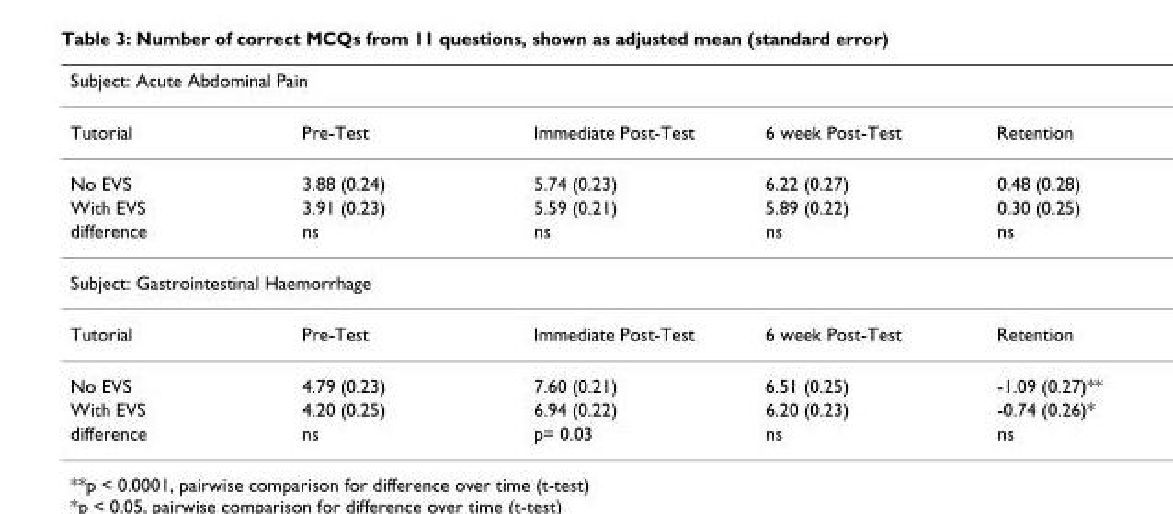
<table><thead><tr><td colspan="5">Subject: Acute Abdominal Pain</td></tr><tr><td>Tutorial</td><td>Pre-Test</td><td>Immediate Post-Test</td><td>6 week Post-Test</td><td>Retention</td></tr></thead><tbody><tr><td>No EVS</td><td>3.88 (0.24)</td><td>5.74 (0.23)</td><td>6.22 (0.27)</td><td>0.48 (0.28)</td></tr><tr><td>With EVS</td><td>3.91 (0.23)</td><td>5.59 (0.21)</td><td>5.89 (0.22)</td><td>0.30 (0.25)</td></tr><tr><td>difference</td><td>ns</td><td>ns</td><td>ns</td><td>ns</td></tr><tr><td colspan="5">Subject: Gastrointestinal Haemorrhage</td></tr><tr><td>Tutorial</td><td>Pre-Test</td><td>Immediate Post-Test</td><td>6 week Post-Test</td><td>Retention</td></tr><tr><td>No EVS</td><td>4.79 (0.23)</td><td>7.60 (0.21)</td><td>6.51 (0.25)</td><td>-1.09 (0.27)**</td></tr><tr><td>With EVS</td><td>4.20 (0.25)</td><td>6.94 (0.22)</td><td>6.20 (0.23)</td><td>-0.74 (0.26)*</td></tr><tr><td>difference</td><td>ns</td><td>p= 0.03</td><td>ns</td><td>ns</td></tr></tbody></table>